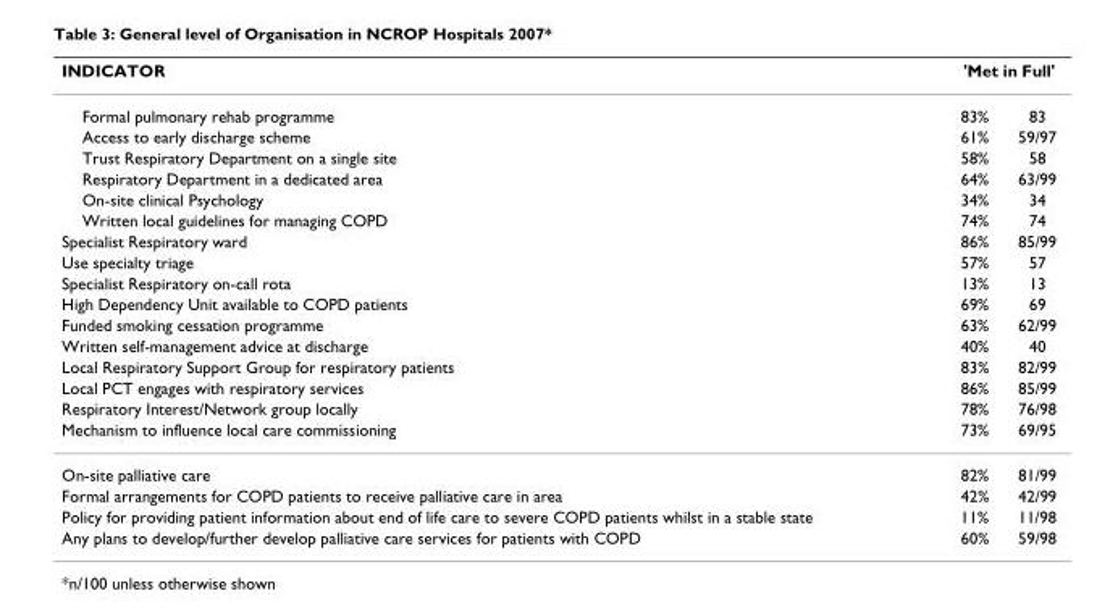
<table><thead><tr><td rowspan="2">INDICATOR Formal pulmonary rehab programme</td><td colspan="2">&#x27;Met in Full&#x27;</td></tr><tr><td>83%</td><td>83</td></tr></thead><tbody><tr><td>Access to early discharge scheme</td><td>61%</td><td>59/97</td></tr><tr><td>Trust Respiratory Department on a single site</td><td>58%</td><td>58</td></tr><tr><td>Respiratory Department in a dedicated area</td><td>64%</td><td>63/99</td></tr><tr><td>On-site clinical Psychology</td><td>34%</td><td>34</td></tr><tr><td>Written local guidelines for managing COPD</td><td>74%</td><td>74</td></tr><tr><td>Specialist Respiratory ward</td><td>86%</td><td>85/99</td></tr><tr><td>Use specialty triage</td><td>57%</td><td>57</td></tr><tr><td>Specialist Respiratory on-call rota</td><td>13%</td><td>13</td></tr><tr><td>High Dependency Unit available to COPD patients</td><td>69%</td><td>69</td></tr><tr><td>Funded smoking cessation programme</td><td>63%</td><td>62/99</td></tr><tr><td>Written self-management advice at discharge</td><td>40%</td><td>40</td></tr><tr><td>Local Respiratory Support Group for respiratory patients</td><td>83%</td><td>82/99</td></tr><tr><td>Local PCT engages with respiratory services</td><td>86%</td><td>85/99</td></tr><tr><td>Respiratory Interest/Network group locally</td><td>78%</td><td>76/98</td></tr><tr><td>Mechanism to influence local care commissioning</td><td>73%</td><td>69/95</td></tr><tr><td>On-site palliative care</td><td>82%</td><td>81/99</td></tr><tr><td>Formal arrangements for COPD patients to receive palliative care in area</td><td>42%</td><td>42/99</td></tr><tr><td>Policy for providing patient information about end of life care to severe COPD patients whilst in a stable state</td><td>11%</td><td>11/98</td></tr><tr><td>Any plans to develop/further develop palliative care services for patients with COPD</td><td>60%</td><td>59/98</td></tr></tbody></table>